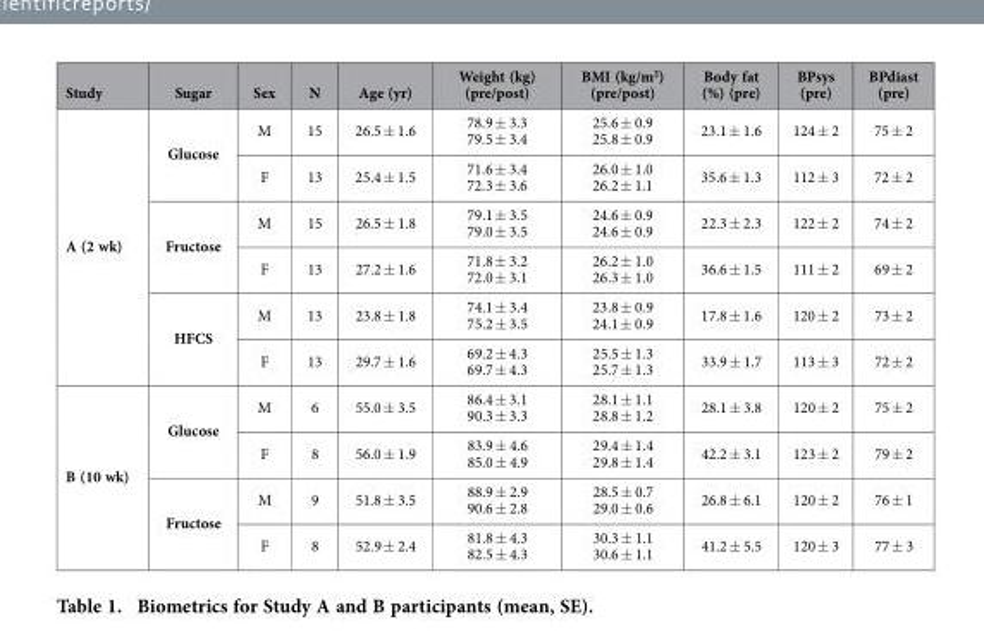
<table><thead><tr><td>Study</td><td>Sugar</td><td>Sex</td><td>N</td><td>Age (yr)</td><td>Weight (kg) (pre/post)</td><td>BMI (kg/m<sup>2</sup>) (pre/post)</td><td>Body fat (%) (pre)</td><td>BPsys (pre)</td><td>BPdiast (pre)</td></tr></thead><tbody><tr><td rowspan="6">A (2 wk)</td><td rowspan="2">Glucose</td><td>M</td><td>15</td><td>26.5 ± 1.6</td><td>78.9 ± 3.3 79.5 ± 3.4</td><td>25.6 ± 0.9 25.8 ± 0.9</td><td>23.1 ± 1.6</td><td>124 ± 2</td><td>75 ± 2</td></tr><tr><td>F</td><td>13</td><td>25.4 ± 1.5</td><td>71.6 ± 3.4 72.3 ± 3.6</td><td>26.0 ± 1.0 26.2 ± 1.1</td><td>35.6 ± 1.3</td><td>112 ± 3</td><td>72 ± 2</td></tr><tr><td rowspan="2">Fructose</td><td>M</td><td>15</td><td>26.5 ± 1.8</td><td>79.1 ± 3.5 79.0 ± 3.5</td><td>24.6 ± 0.9 24.6 ± 0.9</td><td>22.3 ± 2.3</td><td>122 ± 2</td><td>74 ± 2</td></tr><tr><td>F</td><td>13</td><td>27.2 ± 1.6</td><td>71.8 ± 3.2 72.0 ± 3.1</td><td>26.2 ± 1.0 26.3 ± 1.0</td><td>36.6 ± 1.5</td><td>111 ± 2</td><td>69 ± 2</td></tr><tr><td rowspan="2">HFCS</td><td>M</td><td>13</td><td>23.8 ± 1.8</td><td>74.1 ± 3.4 75.2 ± 3.5</td><td>23.8 ± 0.9 24.1 ± 0.9</td><td>17.8 ± 1.6</td><td>120 ± 2</td><td>73 ± 2</td></tr><tr><td>F</td><td>13</td><td>29.7 ± 1.6</td><td>69.2 ± 4.3 69.7 ± 4.3</td><td>25.5 ± 1.3 25.7 ± 1.3</td><td>33.9 ± 1.7</td><td>113 ± 3</td><td>72 ± 2</td></tr><tr><td rowspan="4">B (10 wk)</td><td rowspan="2">Glucose</td><td>M</td><td>6</td><td>55.0 ± 3.5</td><td>86.4 ± 3.1 90.3 ± 3.3</td><td>28.1 ± 1.1 28.8 ± 1.2</td><td>28.1 ± 3.8</td><td>120 ± 2</td><td>75 ± 2</td></tr><tr><td>F</td><td>8</td><td>56.0 ± 1.9</td><td>83.9 ± 4.6 85.0 ± 4.9</td><td>29.4 ± 1.4 29.8 ± 1.4</td><td>42.2 ± 3.1</td><td>123 ± 2</td><td>79 ± 2</td></tr><tr><td rowspan="2">Fructose</td><td>M</td><td>9</td><td>51.8 ± 3.5</td><td>88.9 ± 2.9 90.6 ± 2.8</td><td>28.5 ± 0.7 29.0 ± 0.6</td><td>26.8 ± 6.1</td><td>120 ± 2</td><td>76 ± 1</td></tr><tr><td>F</td><td>8</td><td>52.9 ± 2.4</td><td>81.8 ± 4.3 82.5 ± 4.3</td><td>30.3 ± 1.1 30.6 ± 1.1</td><td>41.2 ± 5.5</td><td>120 ± 3</td><td>77 ± 3</td></tr></tbody></table>